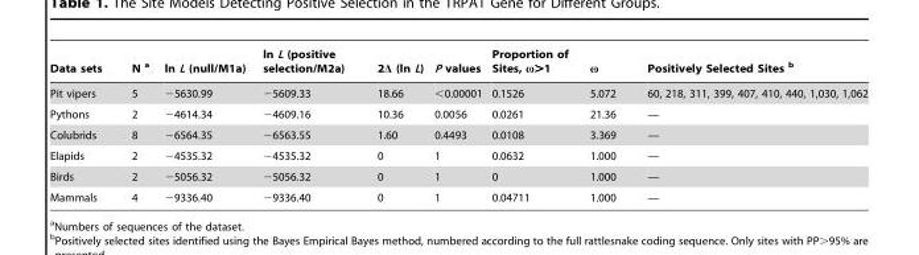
<table><thead><tr><td>Data sets</td><td>N a</td><td>ln L (null/M1a)</td><td>ln L (positive selection/M2a)</td><td>2Δ (ln L)</td><td>P values</td><td>Proportion of Sites, ω&gt;1</td><td>ω</td><td>Positively Selected Sites b</td></tr></thead><tbody><tr><td>Pit vipers</td><td>5</td><td>−5630.99</td><td>−5609.33</td><td>18.66</td><td>&lt;0.00001</td><td>0.1526</td><td>5.072</td><td>60, 218, 311, 399, 407, 410, 440, 1,030, 1,062</td></tr><tr><td>Pythons</td><td>2</td><td>−4614.34</td><td>−4609.16</td><td>10.36</td><td>0.0056</td><td>0.0261</td><td>21.36</td><td>—</td></tr><tr><td>Colubrids</td><td>8</td><td>−6564.35</td><td>−6563.55</td><td>1.60</td><td>0.4493</td><td>0.0108</td><td>3.369</td><td>—</td></tr><tr><td>Elapids</td><td>2</td><td>−4535.32</td><td>−4535.32</td><td>0</td><td>1</td><td>0.0632</td><td>1.000</td><td>—</td></tr><tr><td>Birds</td><td>2</td><td>−5056.32</td><td>−5056.32</td><td>0</td><td>1</td><td>0</td><td>1.000</td><td>—</td></tr><tr><td>Mammals</td><td>4</td><td>−9336.40</td><td>−9336.40</td><td>0</td><td>1</td><td>0.04711</td><td>1.000</td><td>—</td></tr></tbody></table>